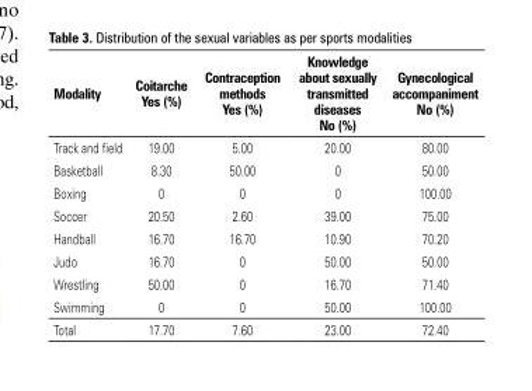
<table><thead><tr><td>Modality</td><td>Coitarche Yes (%)</td><td>Contraception methods Yes (%)</td><td>Knowledge about sexually transmitted diseases No (%)</td><td>Gynecological accompaniment No (%)</td></tr></thead><tbody><tr><td>Track and field</td><td>19.00</td><td>5.00</td><td>20.00</td><td>80.00</td></tr><tr><td>Basketball</td><td>8.30</td><td>50.00</td><td>0</td><td>50.00</td></tr><tr><td>Boxing</td><td>0</td><td>0</td><td>0</td><td>100.00</td></tr><tr><td>Soccer</td><td>20.50</td><td>2.60</td><td>39.00</td><td>75.00</td></tr><tr><td>Handball</td><td>16.70</td><td>16.70</td><td>10.90</td><td>70.20</td></tr><tr><td>Judo</td><td>16.70</td><td>0</td><td>50.00</td><td>50.00</td></tr><tr><td>Wrestling</td><td>50.00</td><td>0</td><td>16.70</td><td>71.40</td></tr><tr><td>Swimming</td><td>0</td><td>0</td><td>50.00</td><td>100.00</td></tr><tr><td>Total</td><td>17.70</td><td>7.60</td><td>23.00</td><td>72.40</td></tr></tbody></table>